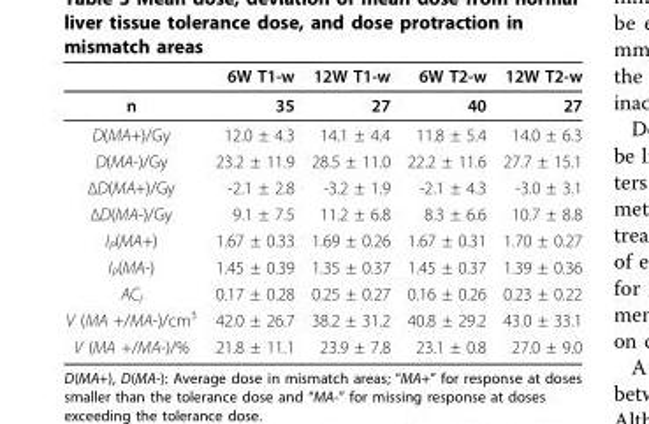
<table><thead><tr><td></td><td>6W T1-w</td><td>12W T1-w</td><td>6W T2-w</td><td>12W T2-w</td></tr></thead><tbody><tr><td>n</td><td>35</td><td>27</td><td>40</td><td>27</td></tr><tr><td>D(MA+)/Gy</td><td>12.0 ± 4.3</td><td>14.1 ± 4.4</td><td>11.8 ± 5.4</td><td>14.0 ± 6.3</td></tr><tr><td>D(MA-)/Gy</td><td>23.2 ± 11.9</td><td>28.5 ± 11.0</td><td>22.2 ± 11.6</td><td>27.7 ± 15.1</td></tr><tr><td>ΔD(MA+)/Gy</td><td>-2.1 ± 2.8</td><td>-3.2 ± 1.9</td><td>-2.1 ± 4.3</td><td>-3.0 ± 3.1</td></tr><tr><td>ΔD(MA-)/Gy</td><td>9.1 ± 7.5</td><td>11.2 ± 6.8</td><td>8.3 ± 6.6</td><td>10.7 ± 8.8</td></tr><tr><td>I<sub>P</sub>(MA+)</td><td>1.67 ± 0.33</td><td>1.69 ± 0.26</td><td>1.67 ± 0.31</td><td>1.70 ± 0.27</td></tr><tr><td>I<sub>P</sub>(MA-)</td><td>1.45 ± 0.39</td><td>1.35 ± 0.37</td><td>1.45 ± 0.37</td><td>1.39 ± 0.36</td></tr><tr><td>AC<sub>I</sub></td><td>0.17 ± 0.28</td><td>0.25 ± 0.27</td><td>0.16 ± 0.26</td><td>0.23 ± 0.22</td></tr><tr><td>V (MA +/MA-)/cm<sup>3</sup></td><td>42.0 ± 26.7</td><td>38.2 ± 31.2</td><td>40.8 ± 29.2</td><td>43.0 ± 33.1</td></tr><tr><td>V (MA +/MA-)/%</td><td>21.8 ± 11.1</td><td>23.9 ± 7.8</td><td>23.1 ± 0.8</td><td>27.0 ± 9.0</td></tr></tbody></table>